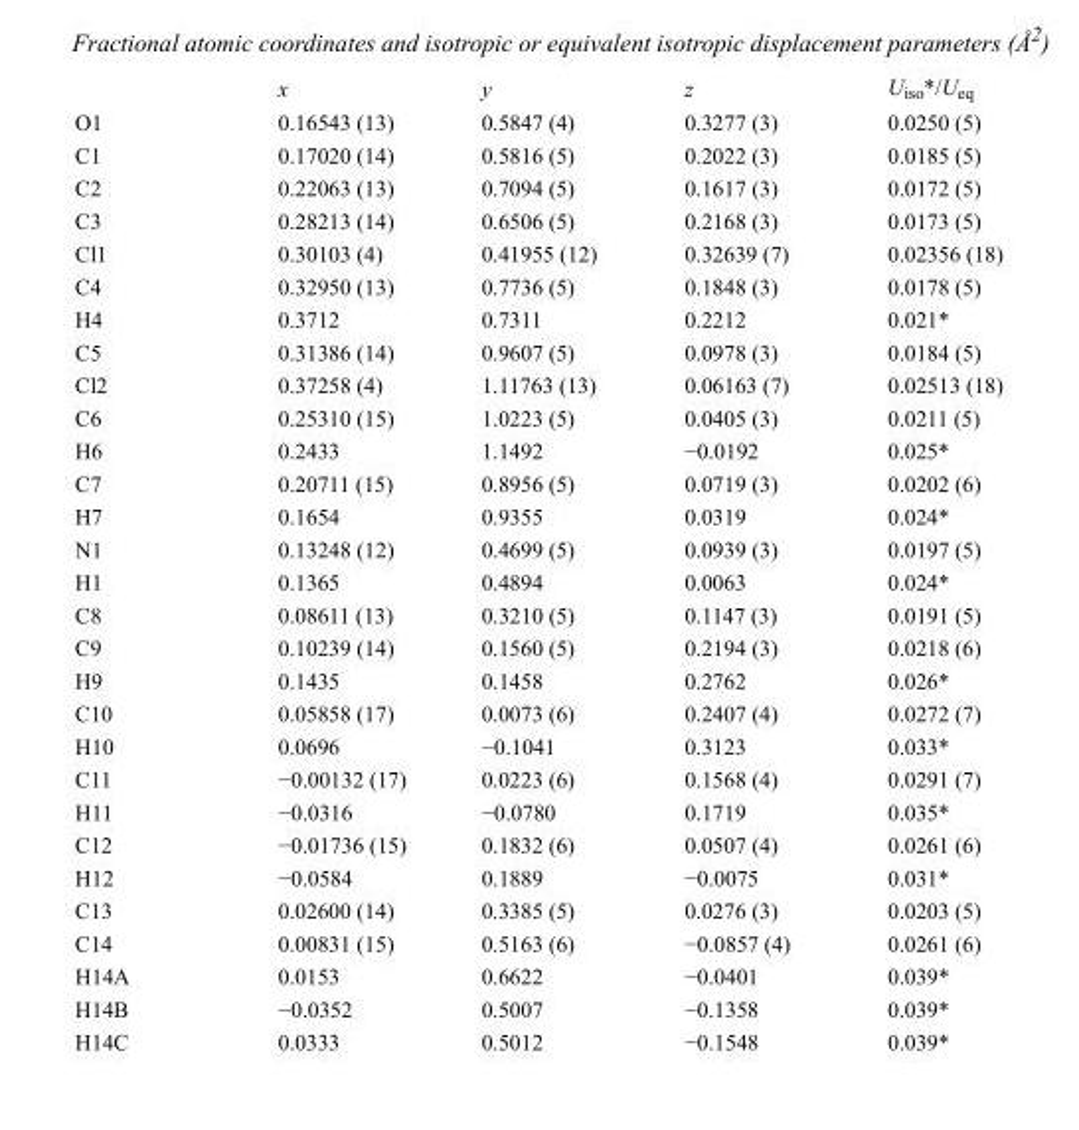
<table><thead><tr><td></td><td>x</td><td>y</td><td>z</td><td>U<sub>iso</sub>*/U<sub>eq</sub></td></tr></thead><tbody><tr><td>O1</td><td>0.16543 (13)</td><td>0.5847 (4)</td><td>0.3277 (3)</td><td>0.0250 (5)</td></tr><tr><td>C1</td><td>0.17020 (14)</td><td>0.5816 (5)</td><td>0.2022 (3)</td><td>0.0185 (5)</td></tr><tr><td>C2</td><td>0.22063 (13)</td><td>0.7094 (5)</td><td>0.1617 (3)</td><td>0.0172 (5)</td></tr><tr><td>C3</td><td>0.28213 (14)</td><td>0.6506 (5)</td><td>0.2168 (3)</td><td>0.0173 (5)</td></tr><tr><td>Cl1</td><td>0.30103 (4)</td><td>0.41955 (12)</td><td>0.32639 (7)</td><td>0.02356 (18)</td></tr><tr><td>C4</td><td>0.32950 (13)</td><td>0.7736 (5)</td><td>0.1848 (3)</td><td>0.0178 (5)</td></tr><tr><td>H4</td><td>0.3712</td><td>0.7311</td><td>0.2212</td><td>0.021*</td></tr><tr><td>C5</td><td>0.31386 (14)</td><td>0.9607 (5)</td><td>0.0978 (3)</td><td>0.0184 (5)</td></tr><tr><td>Cl2</td><td>0.37258 (4)</td><td>1.11763 (13)</td><td>0.06163 (7)</td><td>0.02513 (18)</td></tr><tr><td>C6</td><td>0.25310 (15)</td><td>1.0223 (5)</td><td>0.0405 (3)</td><td>0.0211 (5)</td></tr><tr><td>H6</td><td>0.2433</td><td>1.1492</td><td>−0.0192</td><td>0.025*</td></tr><tr><td>C7</td><td>0.20711 (15)</td><td>0.8956 (5)</td><td>0.0719 (3)</td><td>0.0202 (6)</td></tr><tr><td>H7</td><td>0.1654</td><td>0.9355</td><td>0.0319</td><td>0.024*</td></tr><tr><td>N1</td><td>0.13248 (12)</td><td>0.4699 (5)</td><td>0.0939 (3)</td><td>0.0197 (5)</td></tr><tr><td>H1</td><td>0.1365</td><td>0.4894</td><td>0.0063</td><td>0.024*</td></tr><tr><td>C8</td><td>0.08611 (13)</td><td>0.3210 (5)</td><td>0.1147 (3)</td><td>0.0191 (5)</td></tr><tr><td>C9</td><td>0.10239 (14)</td><td>0.1560 (5)</td><td>0.2194 (3)</td><td>0.0218 (6)</td></tr><tr><td>H9</td><td>0.1435</td><td>0.1458</td><td>0.2762</td><td>0.026*</td></tr><tr><td>C10</td><td>0.05858 (17)</td><td>0.0073 (6)</td><td>0.2407 (4)</td><td>0.0272 (7)</td></tr><tr><td>H10</td><td>0.0696</td><td>−0.1041</td><td>0.3123</td><td>0.033*</td></tr><tr><td>C11</td><td>−0.00132 (17)</td><td>0.0223 (6)</td><td>0.1568 (4)</td><td>0.0291 (7)</td></tr><tr><td>H11</td><td>−0.0316</td><td>−0.0780</td><td>0.1719</td><td>0.035*</td></tr><tr><td>C12</td><td>−0.01736 (15)</td><td>0.1832 (6)</td><td>0.0507 (4)</td><td>0.0261 (6)</td></tr><tr><td>H12</td><td>−0.0584</td><td>0.1889</td><td>−0.0075</td><td>0.031*</td></tr><tr><td>C13</td><td>0.02600 (14)</td><td>0.3385 (5)</td><td>0.0276 (3)</td><td>0.0203 (5)</td></tr><tr><td>C14</td><td>0.00831 (15)</td><td>0.5163 (6)</td><td>−0.0857 (4)</td><td>0.0261 (6)</td></tr><tr><td>H14A</td><td>0.0153</td><td>0.6622</td><td>−0.0401</td><td>0.039*</td></tr><tr><td>H14B</td><td>−0.0352</td><td>0.5007</td><td>−0.1358</td><td>0.039*</td></tr><tr><td>H14C</td><td>0.0333</td><td>0.5012</td><td>−0.1548</td><td>0.039*</td></tr></tbody></table>